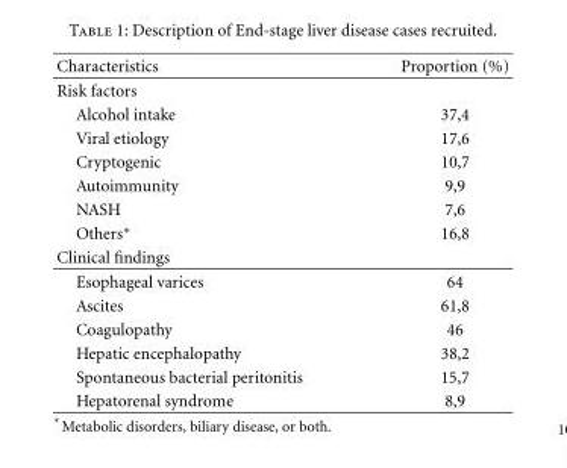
<table><thead><tr><td>Characteristics</td><td>Proportion (%)</td></tr></thead><tbody><tr><td colspan="2">Risk factors</td></tr><tr><td>Alcohol intake</td><td>37,4</td></tr><tr><td>Viral etiology</td><td>17,6</td></tr><tr><td>Cryptogenic</td><td>10,7</td></tr><tr><td>Autoimmunity</td><td>9,9</td></tr><tr><td>NASH</td><td>7,6</td></tr><tr><td>Others∗</td><td>16,8</td></tr><tr><td colspan="2">Clinical findings</td></tr><tr><td>Esophageal varices</td><td>64</td></tr><tr><td>Ascites</td><td>61,8</td></tr><tr><td>Coagulopathy</td><td>46</td></tr><tr><td>Hepatic encephalopathy</td><td>38,2</td></tr><tr><td>Spontaneous bacterial peritonitis</td><td>15,7</td></tr><tr><td>Hepatorenal syndrome</td><td>8,9</td></tr></tbody></table>